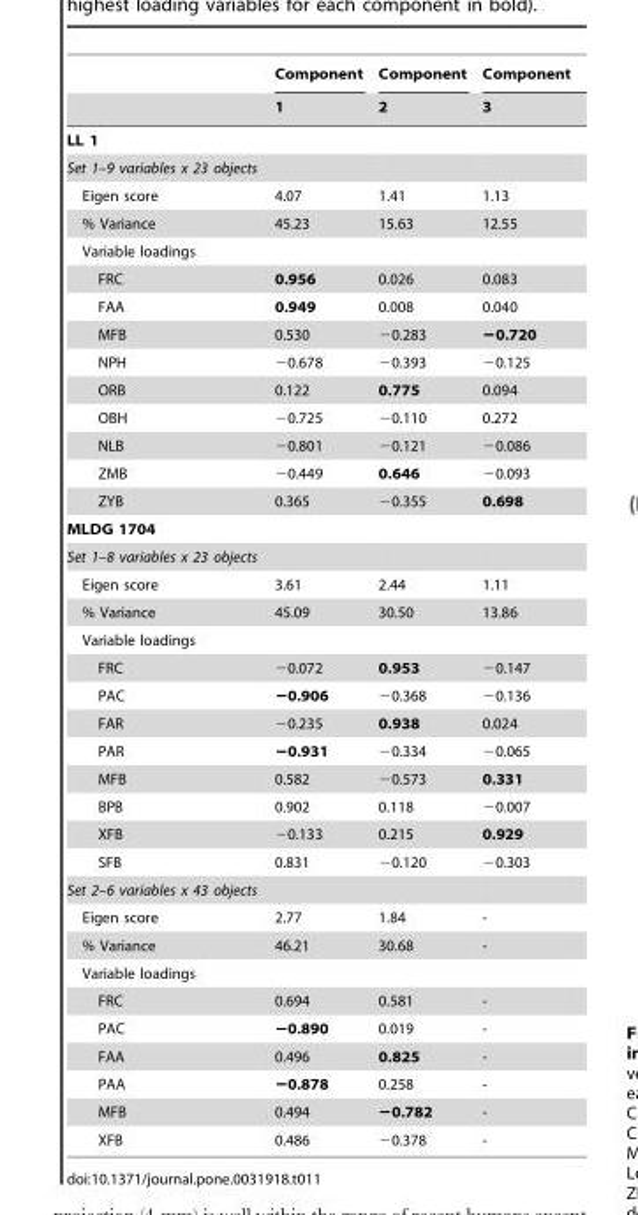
<table><thead><tr><td rowspan="2"></td><td rowspan="2">Component 1</td><td rowspan="2">Component 2</td><td rowspan="2">Component 3</td></tr><tr></tr></thead><tbody><tr><td colspan="4">LL 1</td></tr><tr><td colspan="4">Set 1–9 variables x 23 objects</td></tr><tr><td>Eigen score</td><td>4.07</td><td>1.41</td><td>1.13</td></tr><tr><td>% Variance</td><td>45.23</td><td>15.63</td><td>12.55</td></tr><tr><td colspan="4">Variable loadings</td></tr><tr><td>FRC</td><td>0.956</td><td>0.026</td><td>0.083</td></tr><tr><td>FAA</td><td>0.949</td><td>0.008</td><td>0.040</td></tr><tr><td>MFB</td><td>0.530</td><td>−0.283</td><td>−0.720</td></tr><tr><td>NPH</td><td>−0.678</td><td>−0.393</td><td>−0.125</td></tr><tr><td>ORB</td><td>0.122</td><td>0.775</td><td>0.094</td></tr><tr><td>OBH</td><td>−0.725</td><td>−0.110</td><td>0.272</td></tr><tr><td>NLB</td><td>−0.801</td><td>−0.121</td><td>−0.086</td></tr><tr><td>ZMB</td><td>−0.449</td><td>0.646</td><td>−0.093</td></tr><tr><td>ZYB</td><td>0.365</td><td>−0.355</td><td>0.698</td></tr><tr><td colspan="4">MLDG 1704</td></tr><tr><td colspan="4">Set 1–8 variables x 23 objects</td></tr><tr><td>Eigen score</td><td>3.61</td><td>2.44</td><td>1.11</td></tr><tr><td>% Variance</td><td>45.09</td><td>30.50</td><td>13.86</td></tr><tr><td colspan="4">Variable loadings</td></tr><tr><td>FRC</td><td>−0.072</td><td>0.953</td><td>−0.147</td></tr><tr><td>PAC</td><td>−0.906</td><td>−0.368</td><td>−0.136</td></tr><tr><td>FAR</td><td>−0.235</td><td>0.938</td><td>0.024</td></tr><tr><td>PAR</td><td>−0.931</td><td>−0.334</td><td>−0.065</td></tr><tr><td>MFB</td><td>0.582</td><td>−0.573</td><td>0.331</td></tr><tr><td>BPB</td><td>0.902</td><td>0.118</td><td>−0.007</td></tr><tr><td>XFB</td><td>−0.133</td><td>0.215</td><td>0.929</td></tr><tr><td>SFB</td><td>0.831</td><td>−0.120</td><td>−0.303</td></tr><tr><td colspan="4">Set 2–6 variables x 43 objects</td></tr><tr><td>Eigen score</td><td>2.77</td><td>1.84</td><td>-</td></tr><tr><td>% Variance</td><td>46.21</td><td>30.68</td><td>-</td></tr><tr><td colspan="4">Variable loadings</td></tr><tr><td>FRC</td><td>0.694</td><td>0.581</td><td>-</td></tr><tr><td>PAC</td><td>−0.890</td><td>0.019</td><td>-</td></tr><tr><td>FAA</td><td>0.496</td><td>0.825</td><td>-</td></tr><tr><td>PAA</td><td>−0.878</td><td>0.258</td><td>-</td></tr><tr><td>MFB</td><td>0.494</td><td>−0.782</td><td>-</td></tr><tr><td>XFB</td><td>0.486</td><td>−0.378</td><td>-</td></tr></tbody></table>